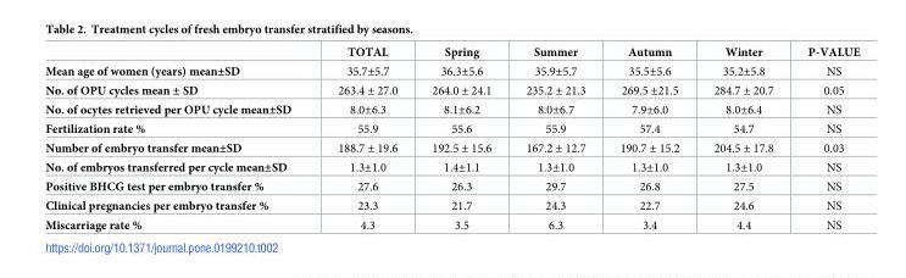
<table><thead><tr><td></td><td>TOTAL</td><td>Spring</td><td>Summer</td><td>Autumn</td><td>Winter</td><td>P-VALUE</td></tr></thead><tbody><tr><td>Mean age of women (years) mean±SD</td><td>35.7±5.7</td><td>36.3±5.6</td><td>35.9±5.7</td><td>35.5±5.6</td><td>35.2±5.8</td><td>NS</td></tr><tr><td>No. of OPU cycles mean ± SD</td><td>263.4 ± 27.0</td><td>264.0 ± 24.1</td><td>235.2 ± 21.3</td><td>269.5 ±21.5</td><td>284.7 ± 20.7</td><td>0.05</td></tr><tr><td>No. of ocytes retrieved per OPU cycle mean±SD</td><td>8.0±6.3</td><td>8.1±6.2</td><td>8.0±6.7</td><td>7.9±6.0</td><td>8.0±6.4</td><td>NS</td></tr><tr><td>Fertilization rate %</td><td>55.9</td><td>55.6</td><td>55.9</td><td>57.4</td><td>54.7</td><td>NS</td></tr><tr><td>Number of embryo transfer mean±SD</td><td>188.7 ± 19.6</td><td>192.5 ± 15.6</td><td>167.2 ± 12.7</td><td>190.7 ± 15.2</td><td>204.5 ± 17.8</td><td>0.03</td></tr><tr><td>No. of embryos transferred per cycle mean±SD</td><td>1.3±1.0</td><td>1.4±1.1</td><td>1.3±1.0</td><td>1.3±1.0</td><td>1.3±1.0</td><td>NS</td></tr><tr><td>Positive BHCG test per embryo transfer %</td><td>27.6</td><td>26.3</td><td>29.7</td><td>26.8</td><td>27.5</td><td>NS</td></tr><tr><td>Clinical pregnancies per embryo transfer %</td><td>23.3</td><td>21.7</td><td>24.3</td><td>22.7</td><td>24.6</td><td>NS</td></tr><tr><td>Miscarriage rate %</td><td>4.3</td><td>3.5</td><td>6.3</td><td>3.4</td><td>4.4</td><td>NS</td></tr></tbody></table>